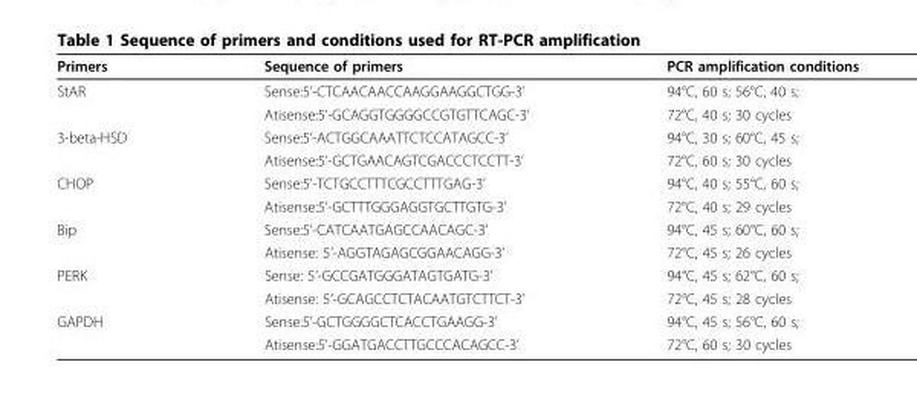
<table><thead><tr><td>Primers</td><td>Sequence of primers</td><td>PCR amplification conditions</td></tr></thead><tbody><tr><td rowspan="2">StAR</td><td>Sense:5’-CTCAACAACCAAGGAAGGCTGG-3’</td><td>94°C, 60 s; 56°C, 40 s;</td></tr><tr><td>Atisense:5’-GCAGGTGGGGCCGTGTTCAGC-3’</td><td>72°C, 40 s; 30 cycles</td></tr><tr><td rowspan="2">3-beta-HSD</td><td>Sense:5’-ACTGGCAAATTCTCCATAGCC-3’</td><td>94°C, 30 s; 60°C, 45 s;</td></tr><tr><td>Atisense:5’-GCTGAACAGTCGACCCTCCTT-3’</td><td>72°C, 60 s; 30 cycles</td></tr><tr><td rowspan="2">CHOP</td><td>Sense:5’-TCTGCCTTTCGCCTTTGAG-3’</td><td>94°C, 40 s; 55°C, 60 s;</td></tr><tr><td>Atisense:5’-GCTTTGGGAGGTGCTTGTG-3’</td><td>72°C, 40 s; 29 cycles</td></tr><tr><td rowspan="2">Bip</td><td>Sense:5’-CATCAATGAGCCAACAGC-3’</td><td>94°C, 45 s; 60°C, 60 s;</td></tr><tr><td>Atisense: 5’-AGGTAGAGCGGAACAGG-3’</td><td>72°C, 45 s; 26 cycles</td></tr><tr><td rowspan="2">PERK</td><td>Sense: 5’-GCCGATGGGATAGTGATG-3’</td><td>94°C, 45 s; 62°C, 60 s;</td></tr><tr><td>Atisense: 5’-GCAGCCTCTACAATGTCTTCT-3’</td><td>72°C, 45 s; 28 cycles</td></tr><tr><td rowspan="2">GAPDH</td><td>Sense:5’-GCTGGGGCTCACCTGAAGG-3’</td><td>94°C, 45 s; 56°C, 60 s;</td></tr><tr><td>Atisense:5’-GGATGACCTTGCCCACAGCC-3’</td><td>72°C, 60 s; 30 cycles</td></tr></tbody></table>